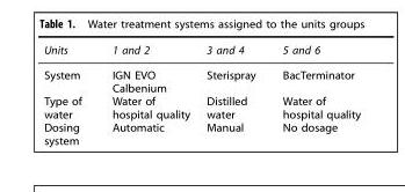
<table><thead><tr><td>Units</td><td>1 and 2</td><td>3 and 4</td><td>5 and 6</td></tr></thead><tbody><tr><td>System</td><td>IGN EVO Calbenium</td><td>Sterispray</td><td>BacTerminator</td></tr><tr><td>Type of water</td><td>Water of hospital quality</td><td>Distilled water</td><td>Water of hospital quality</td></tr><tr><td>Dosing system</td><td>Automatic</td><td>Manual</td><td>No dosage</td></tr></tbody></table>